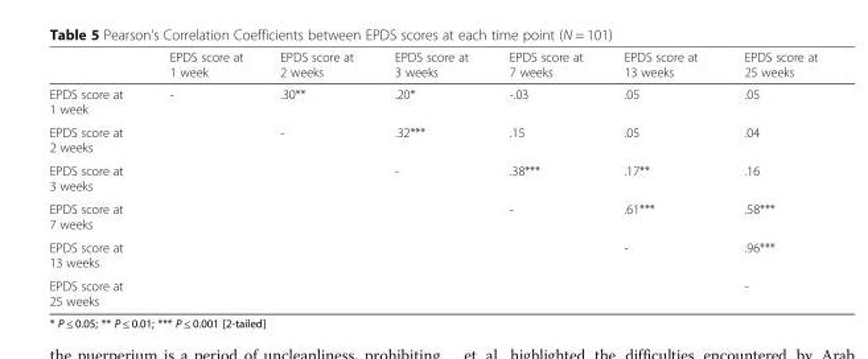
<table><thead><tr><td></td><td>EPDS score at 1 week</td><td>EPDS score at 2 weeks</td><td>EPDS score at 3 weeks</td><td>EPDS score at 7 weeks</td><td>EPDS score at 13 weeks</td><td>EPDS score at 25 weeks</td></tr></thead><tbody><tr><td>EPDS score at 1 week</td><td>-</td><td>.30**</td><td>.20*</td><td>-.03</td><td>.05</td><td>.05</td></tr><tr><td>EPDS score at 2 weeks</td><td></td><td>-</td><td>.32***</td><td>.15</td><td>.05</td><td>.04</td></tr><tr><td>EPDS score at 3 weeks</td><td></td><td></td><td>-</td><td>.38***</td><td>.17**</td><td>.16</td></tr><tr><td>EPDS score at 7 weeks</td><td></td><td></td><td></td><td>-</td><td>.61***</td><td>.58***</td></tr><tr><td>EPDS score at 13 weeks</td><td></td><td></td><td></td><td></td><td>-</td><td>.96***</td></tr><tr><td>EPDS score at 25 weeks</td><td></td><td></td><td></td><td></td><td></td><td>-</td></tr></tbody></table>